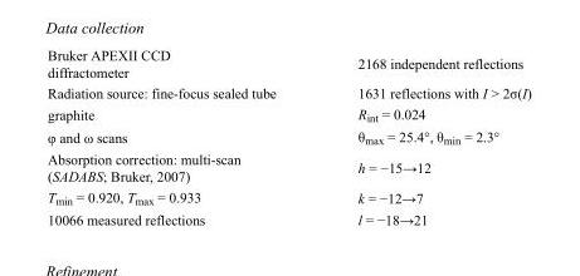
<table><tbody><tr><td>Bruker APEXII CCD diffractometer</td><td>2168 independent reflections</td></tr><tr><td>Radiation source: fine-focus sealed tube</td><td>1631 reflections with I &gt; 2σ(I)</td></tr><tr><td>graphite</td><td>R<sub>int</sub> = 0.024</td></tr><tr><td>φ and ω scans</td><td>θ<sub>max</sub> = 25.4°, θ<sub>min</sub> = 2.3°</td></tr><tr><td>Absorption correction: multi-scan (SADABS; Bruker, 2007)</td><td>h = −15→12</td></tr><tr><td>T<sub>min</sub> = 0.920, T<sub>max</sub> = 0.933</td><td>k = −12→7</td></tr><tr><td>10066 measured reflections</td><td>l = −18→21</td></tr></tbody></table>